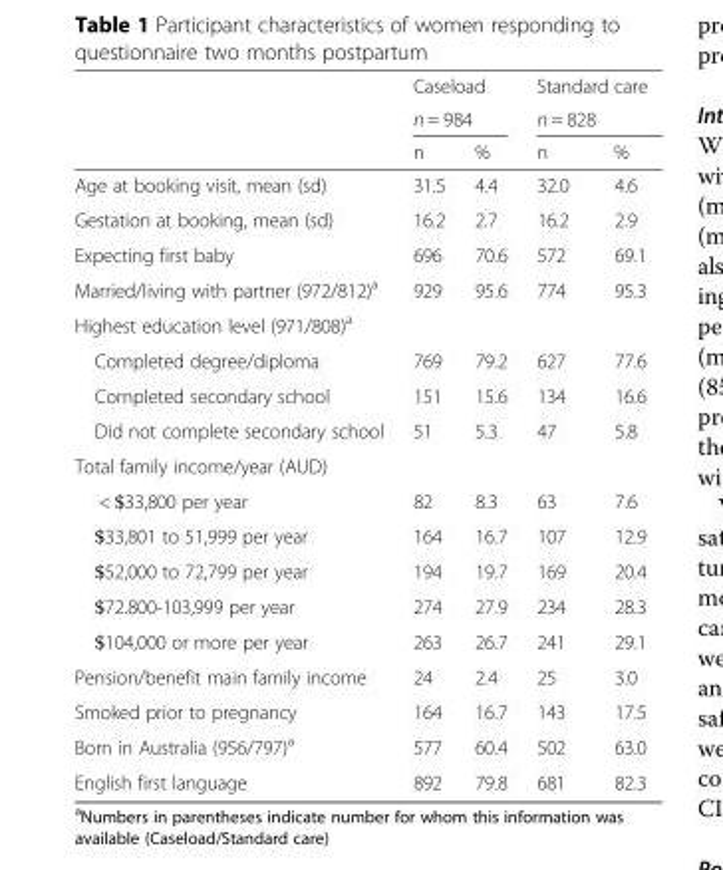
<table><thead><tr><td rowspan="3"></td><td rowspan="2" colspan="2">Caseload n = 984</td><td rowspan="2" colspan="2">Standard care n = 828</td></tr><tr></tr><tr><td>n</td><td>%</td><td>n</td><td>%</td></tr></thead><tbody><tr><td>Age at booking visit, mean (sd)</td><td>31.5</td><td>4.4</td><td>32.0</td><td>4.6</td></tr><tr><td>Gestation at booking, mean (sd)</td><td>16.2</td><td>2.7</td><td>16.2</td><td>2.9</td></tr><tr><td>Expecting first baby</td><td>696</td><td>70.6</td><td>572</td><td>69.1</td></tr><tr><td>Married/living with partner (972/812)<sup>a</sup></td><td>929</td><td>95.6</td><td>774</td><td>95.3</td></tr><tr><td colspan="5">Highest education level (971/808)<sup>a</sup></td></tr><tr><td>Completed degree/diploma</td><td>769</td><td>79.2</td><td>627</td><td>77.6</td></tr><tr><td>Completed secondary school</td><td>151</td><td>15.6</td><td>134</td><td>16.6</td></tr><tr><td>Did not complete secondary school</td><td>51</td><td>5.3</td><td>47</td><td>5.8</td></tr><tr><td colspan="5">Total family income/year (AUD)</td></tr><tr><td>&lt; $33,800 per year</td><td>82</td><td>8.3</td><td>63</td><td>7.6</td></tr><tr><td>$33,801 to 51,999 per year</td><td>164</td><td>16.7</td><td>107</td><td>12.9</td></tr><tr><td>$52,000 to 72,799 per year</td><td>194</td><td>19.7</td><td>169</td><td>20.4</td></tr><tr><td>$72.800-103,999 per year</td><td>274</td><td>27.9</td><td>234</td><td>28.3</td></tr><tr><td>$104,000 or more per year</td><td>263</td><td>26.7</td><td>241</td><td>29.1</td></tr><tr><td>Pension/benefit main family income</td><td>24</td><td>2.4</td><td>25</td><td>3.0</td></tr><tr><td>Smoked prior to pregnancy</td><td>164</td><td>16.7</td><td>143</td><td>17.5</td></tr><tr><td>Born in Australia (956/797)<sup>a</sup></td><td>577</td><td>60.4</td><td>502</td><td>63.0</td></tr><tr><td>English first language</td><td>892</td><td>79.8</td><td>681</td><td>82.3</td></tr></tbody></table>